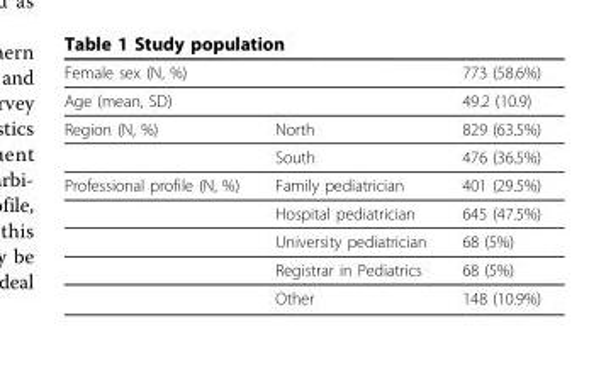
<table><thead><tr><td rowspan="2" colspan="2">Female sex (N, %) Age (mean, SD)</td><td rowspan="3">773 (58.6%) 49.2 (10.9) 829 (63.5%)</td></tr><tr></tr><tr><td>Region (N, %)</td><td>North</td></tr></thead><tbody><tr><td></td><td>South</td><td>476 (36.5%)</td></tr><tr><td rowspan="5">Professional profile (N, %)</td><td>Family pediatrician</td><td>401 (29.5%)</td></tr><tr><td>Hospital pediatrician</td><td>645 (47.5%)</td></tr><tr><td>University pediatrician</td><td>68 (5%)</td></tr><tr><td>Registrar in Pediatrics</td><td>68 (5%)</td></tr><tr><td>Other</td><td>148 (10.9%)</td></tr></tbody></table>